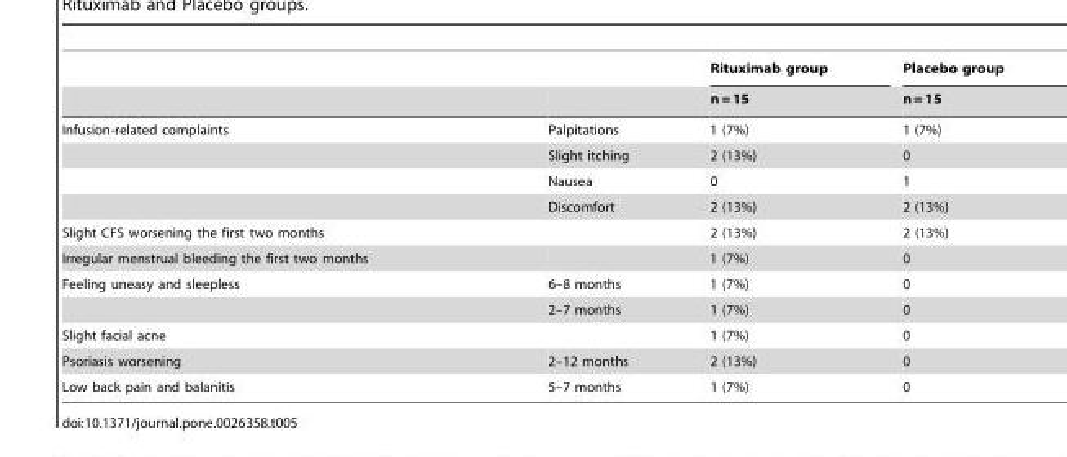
<table><thead><tr><td rowspan="2"></td><td rowspan="2"></td><td rowspan="2">Rituximab group n = 15</td><td rowspan="2">Placebo group n = 15</td></tr><tr></tr></thead><tbody><tr><td rowspan="4">Infusion-related complaints</td><td>Palpitations</td><td>1 (7%)</td><td>1 (7%)</td></tr><tr><td>Slight itching</td><td>2 (13%)</td><td>0</td></tr><tr><td>Nausea</td><td>0</td><td>1</td></tr><tr><td>Discomfort</td><td>2 (13%)</td><td>2 (13%)</td></tr><tr><td>Slight CFS worsening the first two months</td><td></td><td>2 (13%)</td><td>2 (13%)</td></tr><tr><td>Irregular menstrual bleeding the first two months</td><td></td><td>1 (7%)</td><td>0</td></tr><tr><td rowspan="2">Feeling uneasy and sleepless</td><td>6–8 months</td><td>1 (7%)</td><td>0</td></tr><tr><td>2–7 months</td><td>1 (7%)</td><td>0</td></tr><tr><td>Slight facial acne</td><td></td><td>1 (7%)</td><td>0</td></tr><tr><td>Psoriasis worsening</td><td>2–12 months</td><td>2 (13%)</td><td>0</td></tr><tr><td>Low back pain and balanitis</td><td>5–7 months</td><td>1 (7%)</td><td>0</td></tr></tbody></table>